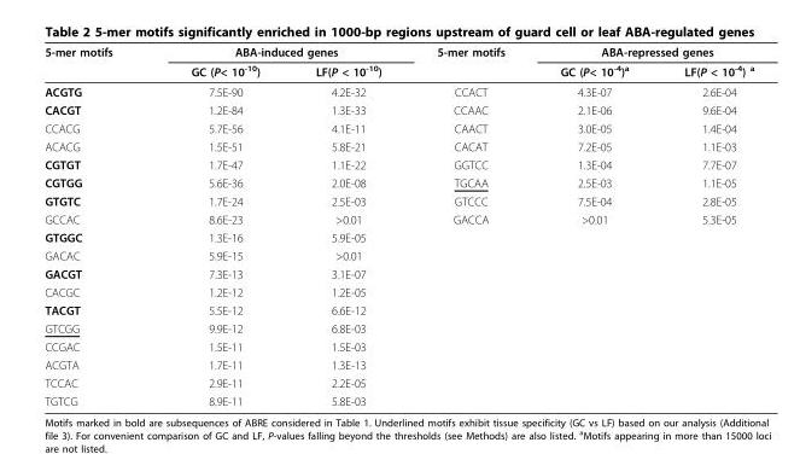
<table><thead><tr><td rowspan="2">5-mer motifs</td><td colspan="2">ABA-induced genes</td><td rowspan="2">5-mer motifs</td><td colspan="2">ABA-repressed genes</td></tr><tr><td>GC (P&lt; 10<sup>-10</sup>)</td><td>LF(P &lt; 10<sup>-10</sup>)</td><td>GC (P&lt; 10<sup>-4</sup>)<sup>a</sup></td><td>LF(P &lt; 10<sup>-4</sup>) <sup>a</sup></td></tr></thead><tbody><tr><td>ACGTG</td><td>7.5E-90</td><td>4.2E-32</td><td>CCACT</td><td>4.3E-07</td><td>2.6E-04</td></tr><tr><td>CACGT</td><td>1.2E-84</td><td>1.3E-33</td><td>CCAAC</td><td>2.1E-06</td><td>9.6E-04</td></tr><tr><td>CCACG</td><td>5.7E-56</td><td>4.1E-11</td><td>CAACT</td><td>3.0E-05</td><td>1.4E-04</td></tr><tr><td>ACACG</td><td>1.5E-51</td><td>5.8E-21</td><td>CACAT</td><td>7.2E-05</td><td>1.1E-03</td></tr><tr><td>CGTGT</td><td>1.7E-47</td><td>1.1E-22</td><td>GGTCC</td><td>1.3E-04</td><td>7.7E-07</td></tr><tr><td>CGTGG</td><td>5.6E-36</td><td>2.0E-08</td><td>TGCAA</td><td>2.5E-03</td><td>1.1E-05</td></tr><tr><td>GTGTC</td><td>1.7E-24</td><td>2.5E-03</td><td>GTCCC</td><td>7.5E-04</td><td>2.8E-05</td></tr><tr><td>GCCAC</td><td>8.6E-23</td><td>&gt;0.01</td><td>GACCA</td><td>&gt;0.01</td><td>5.3E-05</td></tr><tr><td>GTGGC</td><td>1.3E-16</td><td>5.9E-05</td><td></td><td></td><td></td></tr><tr><td>GACAC</td><td>5.9E-15</td><td>&gt;0.01</td><td></td><td></td><td></td></tr><tr><td>GACGT</td><td>7.3E-13</td><td>3.1E-07</td><td></td><td></td><td></td></tr><tr><td>CACGC</td><td>1.2E-12</td><td>1.2E-05</td><td></td><td></td><td></td></tr><tr><td>TACGT</td><td>5.5E-12</td><td>6.6E-12</td><td></td><td></td><td></td></tr><tr><td>GTCGG</td><td>9.9E-12</td><td>6.8E-03</td><td></td><td></td><td></td></tr><tr><td>CCGAC</td><td>1.5E-11</td><td>1.5E-03</td><td></td><td></td><td></td></tr><tr><td>ACGTA</td><td>1.7E-11</td><td>1.3E-13</td><td></td><td></td><td></td></tr><tr><td>TCCAC</td><td>2.9E-11</td><td>2.2E-05</td><td></td><td></td><td></td></tr><tr><td>TGTCG</td><td>8.9E-11</td><td>5.8E-03</td><td></td><td></td><td></td></tr></tbody></table>